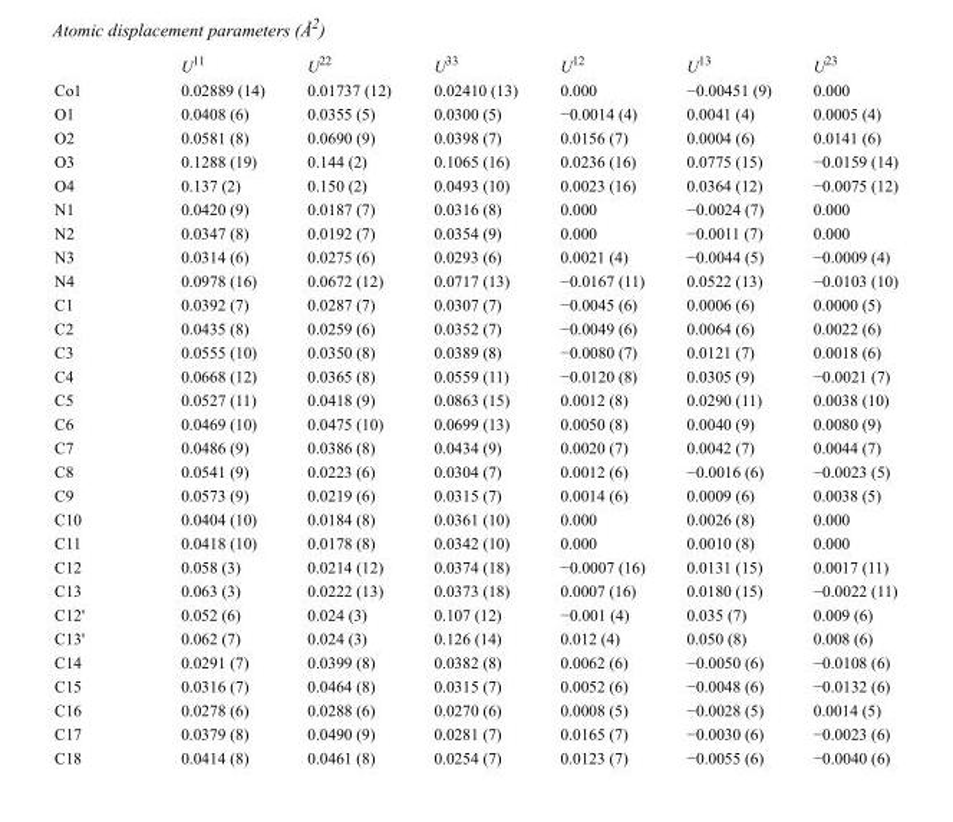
<table><thead><tr><td></td><td>U<sup>11</sup></td><td>U<sup>22</sup></td><td>U<sup>33</sup></td><td>U<sup>12</sup></td><td>U<sup>13</sup></td><td>U<sup>23</sup></td></tr></thead><tbody><tr><td>Co1</td><td>0.02889 (14)</td><td>0.01737 (12)</td><td>0.02410 (13)</td><td>0.000</td><td>−0.00451 (9)</td><td>0.000</td></tr><tr><td>O1</td><td>0.0408 (6)</td><td>0.0355 (5)</td><td>0.0300 (5)</td><td>−0.0014 (4)</td><td>0.0041 (4)</td><td>0.0005 (4)</td></tr><tr><td>O2</td><td>0.0581 (8)</td><td>0.0690 (9)</td><td>0.0398 (7)</td><td>0.0156 (7)</td><td>0.0004 (6)</td><td>0.0141 (6)</td></tr><tr><td>O3</td><td>0.1288 (19)</td><td>0.144 (2)</td><td>0.1065 (16)</td><td>0.0236 (16)</td><td>0.0775 (15)</td><td>−0.0159 (14)</td></tr><tr><td>O4</td><td>0.137 (2)</td><td>0.150 (2)</td><td>0.0493 (10)</td><td>0.0023 (16)</td><td>0.0364 (12)</td><td>−0.0075 (12)</td></tr><tr><td>N1</td><td>0.0420 (9)</td><td>0.0187 (7)</td><td>0.0316 (8)</td><td>0.000</td><td>−0.0024 (7)</td><td>0.000</td></tr><tr><td>N2</td><td>0.0347 (8)</td><td>0.0192 (7)</td><td>0.0354 (9)</td><td>0.000</td><td>−0.0011 (7)</td><td>0.000</td></tr><tr><td>N3</td><td>0.0314 (6)</td><td>0.0275 (6)</td><td>0.0293 (6)</td><td>0.0021 (4)</td><td>−0.0044 (5)</td><td>−0.0009 (4)</td></tr><tr><td>N4</td><td>0.0978 (16)</td><td>0.0672 (12)</td><td>0.0717 (13)</td><td>−0.0167 (11)</td><td>0.0522 (13)</td><td>−0.0103 (10)</td></tr><tr><td>C1</td><td>0.0392 (7)</td><td>0.0287 (7)</td><td>0.0307 (7)</td><td>−0.0045 (6)</td><td>0.0006 (6)</td><td>0.0000 (5)</td></tr><tr><td>C2</td><td>0.0435 (8)</td><td>0.0259 (6)</td><td>0.0352 (7)</td><td>−0.0049 (6)</td><td>0.0064 (6)</td><td>0.0022 (6)</td></tr><tr><td>C3</td><td>0.0555 (10)</td><td>0.0350 (8)</td><td>0.0389 (8)</td><td>−0.0080 (7)</td><td>0.0121 (7)</td><td>0.0018 (6)</td></tr><tr><td>C4</td><td>0.0668 (12)</td><td>0.0365 (8)</td><td>0.0559 (11)</td><td>−0.0120 (8)</td><td>0.0305 (9)</td><td>−0.0021 (7)</td></tr><tr><td>C5</td><td>0.0527 (11)</td><td>0.0418 (9)</td><td>0.0863 (15)</td><td>0.0012 (8)</td><td>0.0290 (11)</td><td>0.0038 (10)</td></tr><tr><td>C6</td><td>0.0469 (10)</td><td>0.0475 (10)</td><td>0.0699 (13)</td><td>0.0050 (8)</td><td>0.0040 (9)</td><td>0.0080 (9)</td></tr><tr><td>C7</td><td>0.0486 (9)</td><td>0.0386 (8)</td><td>0.0434 (9)</td><td>0.0020 (7)</td><td>0.0042 (7)</td><td>0.0044 (7)</td></tr><tr><td>C8</td><td>0.0541 (9)</td><td>0.0223 (6)</td><td>0.0304 (7)</td><td>0.0012 (6)</td><td>−0.0016 (6)</td><td>−0.0023 (5)</td></tr><tr><td>C9</td><td>0.0573 (9)</td><td>0.0219 (6)</td><td>0.0315 (7)</td><td>0.0014 (6)</td><td>0.0009 (6)</td><td>0.0038 (5)</td></tr><tr><td>C10</td><td>0.0404 (10)</td><td>0.0184 (8)</td><td>0.0361 (10)</td><td>0.000</td><td>0.0026 (8)</td><td>0.000</td></tr><tr><td>C11</td><td>0.0418 (10)</td><td>0.0178 (8)</td><td>0.0342 (10)</td><td>0.000</td><td>0.0010 (8)</td><td>0.000</td></tr><tr><td>C12</td><td>0.058 (3)</td><td>0.0214 (12)</td><td>0.0374 (18)</td><td>−0.0007 (16)</td><td>0.0131 (15)</td><td>0.0017 (11)</td></tr><tr><td>C13</td><td>0.063 (3)</td><td>0.0222 (13)</td><td>0.0373 (18)</td><td>0.0007 (16)</td><td>0.0180 (15)</td><td>−0.0022 (11)</td></tr><tr><td>C12&#x27;</td><td>0.052 (6)</td><td>0.024 (3)</td><td>0.107 (12)</td><td>−0.001 (4)</td><td>0.035 (7)</td><td>0.009 (6)</td></tr><tr><td>C13&#x27;</td><td>0.062 (7)</td><td>0.024 (3)</td><td>0.126 (14)</td><td>0.012 (4)</td><td>0.050 (8)</td><td>0.008 (6)</td></tr><tr><td>C14</td><td>0.0291 (7)</td><td>0.0399 (8)</td><td>0.0382 (8)</td><td>0.0062 (6)</td><td>−0.0050 (6)</td><td>−0.0108 (6)</td></tr><tr><td>C15</td><td>0.0316 (7)</td><td>0.0464 (8)</td><td>0.0315 (7)</td><td>0.0052 (6)</td><td>−0.0048 (6)</td><td>−0.0132 (6)</td></tr><tr><td>C16</td><td>0.0278 (6)</td><td>0.0288 (6)</td><td>0.0270 (6)</td><td>0.0008 (5)</td><td>−0.0028 (5)</td><td>0.0014 (5)</td></tr><tr><td>C17</td><td>0.0379 (8)</td><td>0.0490 (9)</td><td>0.0281 (7)</td><td>0.0165 (7)</td><td>−0.0030 (6)</td><td>−0.0023 (6)</td></tr><tr><td>C18</td><td>0.0414 (8)</td><td>0.0461 (8)</td><td>0.0254 (7)</td><td>0.0123 (7)</td><td>−0.0055 (6)</td><td>−0.0040 (6)</td></tr></tbody></table>